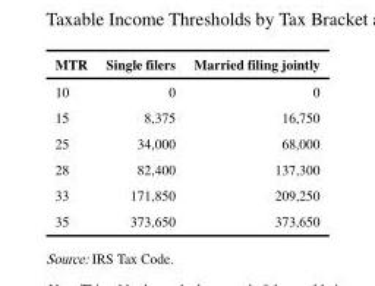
<table><thead><tr><td>MTR</td><td>Single filers</td><td>Married filing jointly</td></tr></thead><tbody><tr><td>10</td><td>0</td><td>0</td></tr><tr><td>15</td><td>8,375</td><td>16,750</td></tr><tr><td>25</td><td>34,000</td><td>68,000</td></tr><tr><td>28</td><td>82,400</td><td>137,300</td></tr><tr><td>33</td><td>171,850</td><td>209,250</td></tr><tr><td>35</td><td>373,650</td><td>373,650</td></tr></tbody></table>